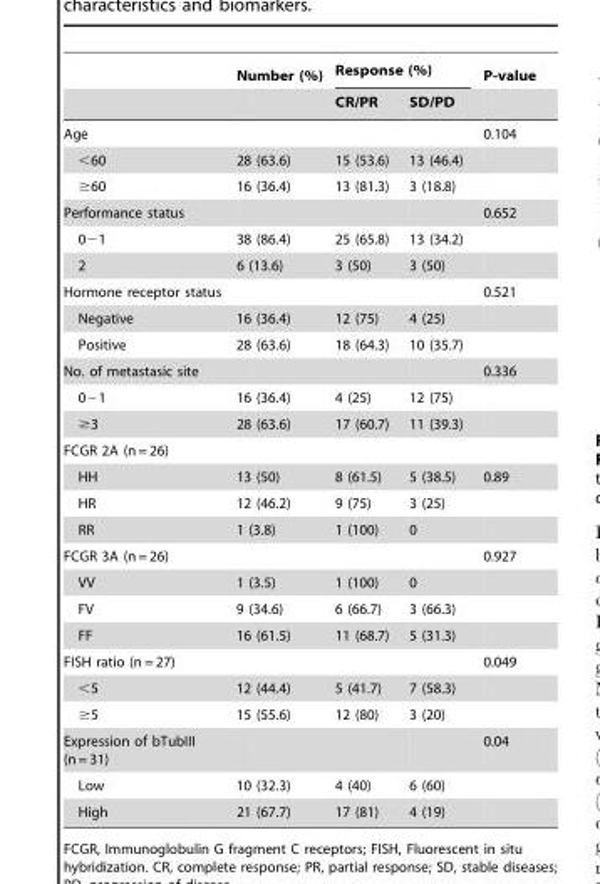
<table><thead><tr><td rowspan="2"></td><td rowspan="2">Number (%)</td><td colspan="2">Response (%)</td><td rowspan="2">P-value</td></tr><tr><td>CR/PR</td><td>SD/PD</td></tr></thead><tbody><tr><td>Age</td><td></td><td></td><td></td><td>0.104</td></tr><tr><td>&lt;60</td><td>28 (63.6)</td><td>15 (53.6)</td><td>13 (46.4)</td><td></td></tr><tr><td>≥60</td><td>16 (36.4)</td><td>13 (81.3)</td><td>3 (18.8)</td><td></td></tr><tr><td>Performance status</td><td></td><td></td><td></td><td>0.652</td></tr><tr><td>0−1</td><td>38 (86.4)</td><td>25 (65.8)</td><td>13 (34.2)</td><td></td></tr><tr><td>2</td><td>6 (13.6)</td><td>3 (50)</td><td>3 (50)</td><td></td></tr><tr><td>Hormone receptor status</td><td></td><td></td><td></td><td>0.521</td></tr><tr><td>Negative</td><td>16 (36.4)</td><td>12 (75)</td><td>4 (25)</td><td></td></tr><tr><td>Positive</td><td>28 (63.6)</td><td>18 (64.3)</td><td>10 (35.7)</td><td></td></tr><tr><td>No. of metastasic site</td><td></td><td></td><td></td><td>0.336</td></tr><tr><td>0−1</td><td>16 (36.4)</td><td>4 (25)</td><td>12 (75)</td><td></td></tr><tr><td>≥3</td><td>28 (63.6)</td><td>17 (60.7)</td><td>11 (39.3)</td><td></td></tr><tr><td colspan="5">FCGR 2A (n = 26)</td></tr><tr><td>HH</td><td>13 (50)</td><td>8 (61.5)</td><td>5 (38.5)</td><td>0.89</td></tr><tr><td>HR</td><td>12 (46.2)</td><td>9 (75)</td><td>3 (25)</td><td></td></tr><tr><td>RR</td><td>1 (3.8)</td><td>1 (100)</td><td>0</td><td></td></tr><tr><td>FCGR 3A (n = 26)</td><td></td><td></td><td></td><td>0.927</td></tr><tr><td>VV</td><td>1 (3.5)</td><td>1 (100)</td><td>0</td><td></td></tr><tr><td>FV</td><td>9 (34.6)</td><td>6 (66.7)</td><td>3 (66.3)</td><td></td></tr><tr><td>FF</td><td>16 (61.5)</td><td>11 (68.7)</td><td>5 (31.3)</td><td></td></tr><tr><td>FISH ratio (n = 27)</td><td></td><td></td><td></td><td>0.049</td></tr><tr><td>&lt;5</td><td>12 (44.4)</td><td>5 (41.7)</td><td>7 (58.3)</td><td></td></tr><tr><td>≥5</td><td>15 (55.6)</td><td>12 (80)</td><td>3 (20)</td><td></td></tr><tr><td>Expression of bTubIII (n = 31)</td><td></td><td></td><td></td><td>0.04</td></tr><tr><td>Low</td><td>10 (32.3)</td><td>4 (40)</td><td>6 (60)</td><td></td></tr><tr><td>High</td><td>21 (67.7)</td><td>17 (81)</td><td>4 (19)</td><td></td></tr></tbody></table>